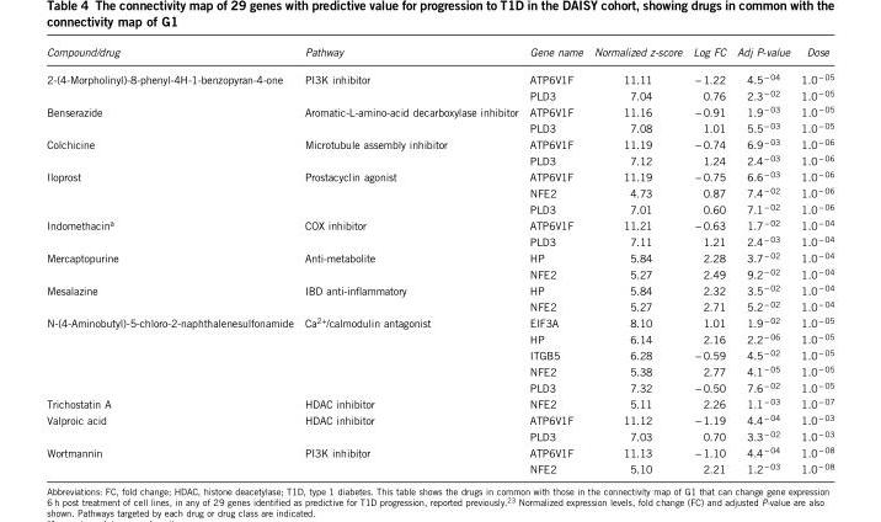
<table><thead><tr><td>Compound/drug</td><td>Pathway</td><td>Gene name</td><td>Normalized z-score</td><td>Log FC</td><td>Adj P-value</td><td>Dose</td></tr></thead><tbody><tr><td rowspan="2">2-(4-Morpholinyl)-8-phenyl-4H-1-benzopyran-4-one</td><td>PI3K inhibitor</td><td>ATP6V1F</td><td>11.11</td><td>− 1.22</td><td>4.5<sup>− 04</sup></td><td>1.0<sup>− 05</sup></td></tr><tr><td></td><td>PLD3</td><td>7.04</td><td>0.76</td><td>2.3<sup>− 02</sup></td><td>1.0<sup>− 05</sup></td></tr><tr><td rowspan="2">Benserazide</td><td>Aromatic-L-amino-acid decarboxylase inhibitor</td><td>ATP6V1F</td><td>11.16</td><td>− 0.91</td><td>1.9<sup>− 03</sup></td><td>1.0<sup>− 05</sup></td></tr><tr><td></td><td>PLD3</td><td>7.08</td><td>1.01</td><td>5.5<sup>− 03</sup></td><td>1.0<sup>− 05</sup></td></tr><tr><td rowspan="2">Colchicine</td><td>Microtubule assembly inhibitor</td><td>ATP6V1F</td><td>11.19</td><td>− 0.74</td><td>6.9<sup>− 03</sup></td><td>1.0<sup>− 06</sup></td></tr><tr><td></td><td>PLD3</td><td>7.12</td><td>1.24</td><td>2.4<sup>− 03</sup></td><td>1.0<sup>− 06</sup></td></tr><tr><td rowspan="3">Iloprost</td><td>Prostacyclin agonist</td><td>ATP6V1F</td><td>11.19</td><td>− 0.75</td><td>6.6<sup>− 03</sup></td><td>1.0<sup>− 06</sup></td></tr><tr><td></td><td>NFE2</td><td>4.73</td><td>0.87</td><td>7.4<sup>− 02</sup></td><td>1.0<sup>− 06</sup></td></tr><tr><td></td><td>PLD3</td><td>7.01</td><td>0.60</td><td>7.1<sup>− 02</sup></td><td>1.0<sup>− 06</sup></td></tr><tr><td rowspan="2">Indomethacin<sup>a</sup></td><td>COX inhibitor</td><td>ATP6V1F</td><td>11.21</td><td>− 0.63</td><td>1.7<sup>− 02</sup></td><td>1.0<sup>− 04</sup></td></tr><tr><td></td><td>PLD3</td><td>7.11</td><td>1.21</td><td>2.4<sup>− 03</sup></td><td>1.0<sup>− 04</sup></td></tr><tr><td rowspan="2">Mercaptopurine</td><td>Anti-metabolite</td><td>HP</td><td>5.84</td><td>2.28</td><td>3.7<sup>− 02</sup></td><td>1.0<sup>− 04</sup></td></tr><tr><td></td><td>NFE2</td><td>5.27</td><td>2.49</td><td>9.2<sup>− 02</sup></td><td>1.0<sup>− 04</sup></td></tr><tr><td rowspan="2">Mesalazine</td><td>IBD anti-inflammatory</td><td>HP</td><td>5.84</td><td>2.32</td><td>3.5<sup>− 02</sup></td><td>1.0<sup>− 04</sup></td></tr><tr><td></td><td>NFE2</td><td>5.27</td><td>2.71</td><td>5.2<sup>− 02</sup></td><td>1.0<sup>− 04</sup></td></tr><tr><td rowspan="5">N-(4-Aminobutyl)-5-chloro-2-naphthalenesulfonamide</td><td>Ca<sup>2+</sup>/calmodulin antagonist</td><td>EIF3A</td><td>8.10</td><td>1.01</td><td>1.9<sup>− 02</sup></td><td>1.0<sup>− 05</sup></td></tr><tr><td></td><td>HP</td><td>6.14</td><td>2.16</td><td>2.2<sup>− 06</sup></td><td>1.0<sup>− 05</sup></td></tr><tr><td></td><td>ITGB5</td><td>6.28</td><td>− 0.59</td><td>4.5<sup>− 02</sup></td><td>1.0<sup>− 05</sup></td></tr><tr><td></td><td>NFE2</td><td>5.38</td><td>2.77</td><td>4.1<sup>− 05</sup></td><td>1.0<sup>− 05</sup></td></tr><tr><td></td><td>PLD3</td><td>7.32</td><td>− 0.50</td><td>7.6<sup>− 02</sup></td><td>1.0<sup>− 05</sup></td></tr><tr><td>Trichostatin A</td><td>HDAC inhibitor</td><td>NFE2</td><td>5.11</td><td>2.26</td><td>1.1<sup>− 03</sup></td><td>1.0<sup>− 07</sup></td></tr><tr><td rowspan="2">Valproic acid</td><td>HDAC inhibitor</td><td>ATP6V1F</td><td>11.12</td><td>− 1.19</td><td>4.4<sup>− 04</sup></td><td>1.0<sup>− 03</sup></td></tr><tr><td></td><td>PLD3</td><td>7.03</td><td>0.70</td><td>3.3<sup>− 02</sup></td><td>1.0<sup>− 03</sup></td></tr><tr><td rowspan="2">Wortmannin</td><td>PI3K inhibitor</td><td>ATP6V1F</td><td>11.13</td><td>− 1.10</td><td>4.4<sup>− 04</sup></td><td>1.0<sup>− 08</sup></td></tr><tr><td></td><td>NFE2</td><td>5.10</td><td>2.21</td><td>1.2<sup>− 03</sup></td><td>1.0<sup>− 08</sup></td></tr></tbody></table>